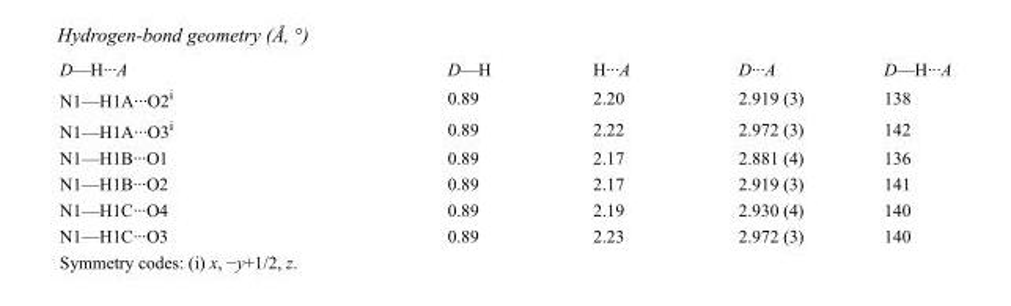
<table><tbody><tr><td>D—H···A</td><td>D—H</td><td>H···A</td><td>D···A</td><td>D—H···A</td></tr><tr><td>N1—H1A···O2<sup>i</sup></td><td>0.89</td><td>2.20</td><td>2.919 (3)</td><td>138</td></tr><tr><td>N1—H1A···O3<sup>i</sup></td><td>0.89</td><td>2.22</td><td>2.972 (3)</td><td>142</td></tr><tr><td>N1—H1B···O1</td><td>0.89</td><td>2.17</td><td>2.881 (4)</td><td>136</td></tr><tr><td>N1—H1B···O2</td><td>0.89</td><td>2.17</td><td>2.919 (3)</td><td>141</td></tr><tr><td>N1—H1C···O4</td><td>0.89</td><td>2.19</td><td>2.930 (4)</td><td>140</td></tr><tr><td>N1—H1C···O3</td><td>0.89</td><td>2.23</td><td>2.972 (3)</td><td>140</td></tr></tbody></table>